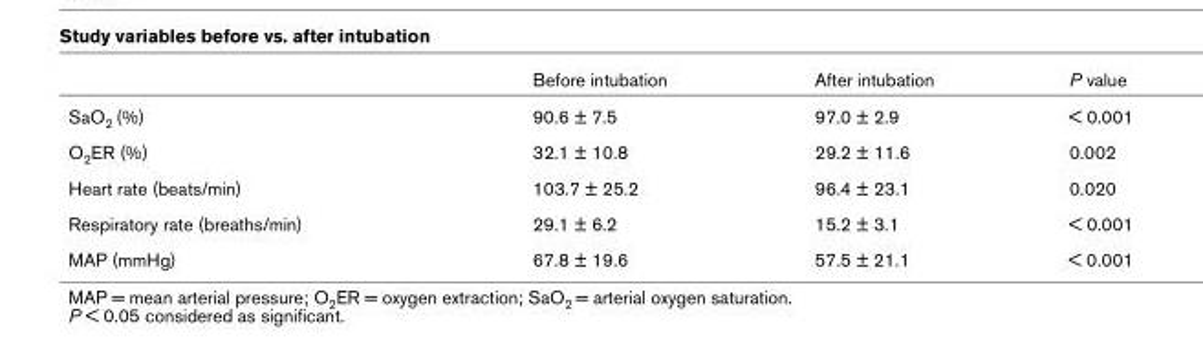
<table><thead><tr><td></td><td>Before intubation</td><td>After intubation</td><td>P value</td></tr></thead><tbody><tr><td>SaO<sub>2</sub> (%)</td><td>90.6 ± 7.5</td><td>97.0 ± 2.9</td><td>&lt; 0.001</td></tr><tr><td>O<sub>2</sub>ER (%)</td><td>32.1 ± 10.8</td><td>29.2 ± 11.6</td><td>0.002</td></tr><tr><td>Heart rate (beats/min)</td><td>103.7 ± 25.2</td><td>96.4 ± 23.1</td><td>0.020</td></tr><tr><td>Respiratory rate (breaths/min)</td><td>29.1 ± 6.2</td><td>15.2 ± 3.1</td><td>&lt; 0.001</td></tr><tr><td>MAP (mmHg)</td><td>67.8 ± 19.6</td><td>57.5 ± 21.1</td><td>&lt; 0.001</td></tr></tbody></table>